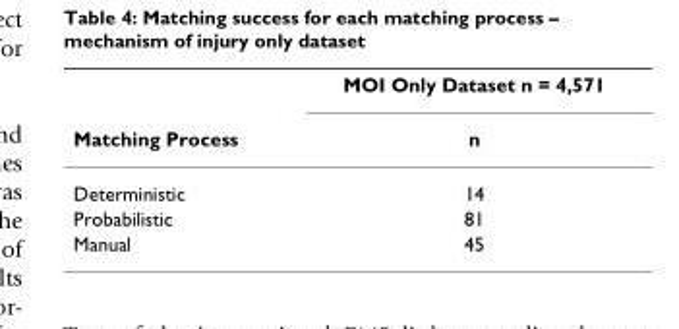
<table><thead><tr><td rowspan="2">Matching Process</td><td rowspan="2">MOI Only Dataset n = 4,571 n</td></tr><tr></tr></thead><tbody><tr><td>Deterministic</td><td>14</td></tr><tr><td>Probabilistic</td><td>81</td></tr><tr><td>Manual</td><td>45</td></tr></tbody></table>